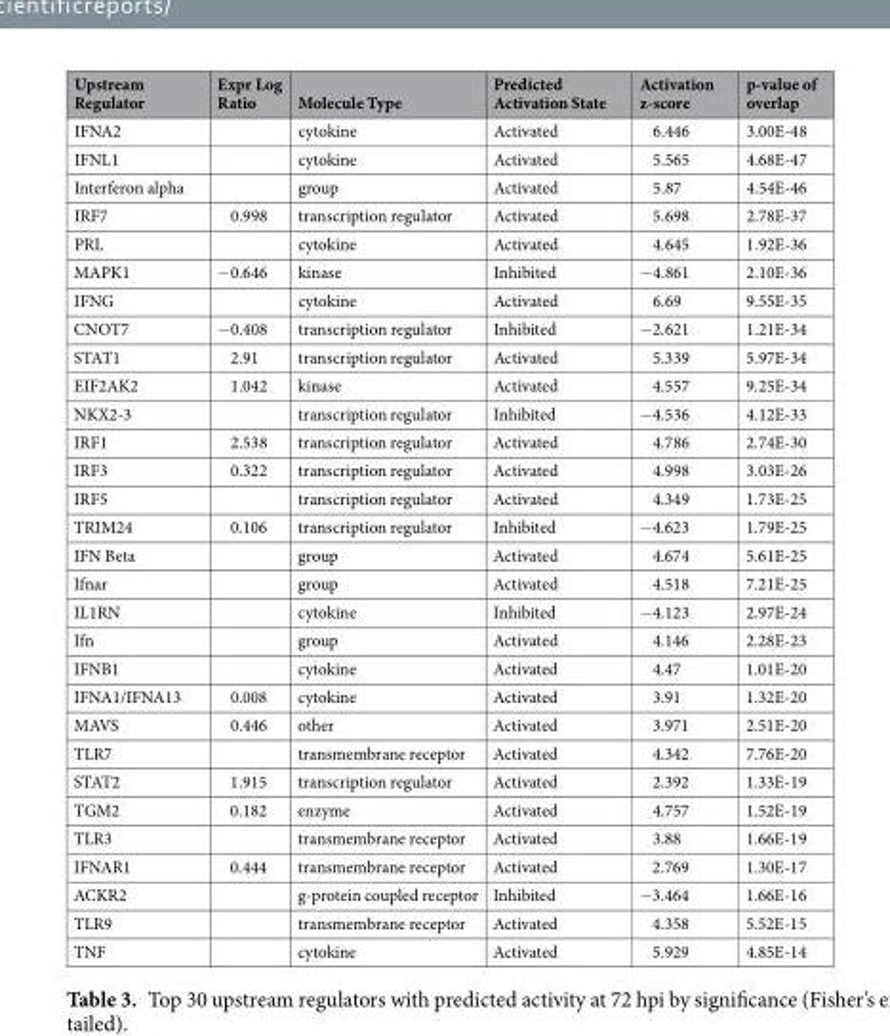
<table><thead><tr><td>Upstream Regulator</td><td>Expr Log Ratio</td><td>Molecule Type</td><td>Predicted Activation State</td><td>Activation z-score</td><td>p-value of overlap</td></tr></thead><tbody><tr><td>IFNA2</td><td></td><td>cytokine</td><td>Activated</td><td>6.446</td><td>3.00E-48</td></tr><tr><td>IFNL1</td><td></td><td>cytokine</td><td>Activated</td><td>5.565</td><td>4.68E-47</td></tr><tr><td>Interferon alpha</td><td></td><td>group</td><td>Activated</td><td>5.87</td><td>4.54E-46</td></tr><tr><td>IRF7</td><td>0.998</td><td>transcription regulator</td><td>Activated</td><td>5.698</td><td>2.78E-37</td></tr><tr><td>PRL</td><td></td><td>cytokine</td><td>Activated</td><td>4.645</td><td>1.92E-36</td></tr><tr><td>MAPK1</td><td>−0.646</td><td>kinase</td><td>Inhibited</td><td>−4.861</td><td>2.10E-36</td></tr><tr><td>IFNG</td><td></td><td>cytokine</td><td>Activated</td><td>6.69</td><td>9.55E-35</td></tr><tr><td>CNOT7</td><td>−0.408</td><td>transcription regulator</td><td>Inhibited</td><td>−2.621</td><td>1.21E-34</td></tr><tr><td>STAT1</td><td>2.91</td><td>transcription regulator</td><td>Activated</td><td>5.339</td><td>5.97E-34</td></tr><tr><td>EIF2AK2</td><td>1.042</td><td>kinase</td><td>Activated</td><td>4.557</td><td>9.25E-34</td></tr><tr><td>NKX2-3</td><td></td><td>transcription regulator</td><td>Inhibited</td><td>−4.536</td><td>4.12E-33</td></tr><tr><td>IRF1</td><td>2.538</td><td>transcription regulator</td><td>Activated</td><td>4.786</td><td>2.74E-30</td></tr><tr><td>IRF3</td><td>0.322</td><td>transcription regulator</td><td>Activated</td><td>4.998</td><td>3.03E-26</td></tr><tr><td>IRF5</td><td></td><td>transcription regulator</td><td>Activated</td><td>4.349</td><td>1.73E-25</td></tr><tr><td>TRIM24</td><td>0.106</td><td>transcription regulator</td><td>Inhibited</td><td>−4.623</td><td>1.79E-25</td></tr><tr><td>IFN Beta</td><td></td><td>group</td><td>Activated</td><td>4.674</td><td>5.61E-25</td></tr><tr><td>Ifnar</td><td></td><td>group</td><td>Activated</td><td>4.518</td><td>7.21E-25</td></tr><tr><td>IL1RN</td><td></td><td>cytokine</td><td>Inhibited</td><td>−4.123</td><td>2.97E-24</td></tr><tr><td>Ifn</td><td></td><td>group</td><td>Activated</td><td>4.146</td><td>2.28E-23</td></tr><tr><td>IFNB1</td><td></td><td>cytokine</td><td>Activated</td><td>4.47</td><td>1.01E-20</td></tr><tr><td>IFNA1/IFNA13</td><td>0.008</td><td>cytokine</td><td>Activated</td><td>3.91</td><td>1.32E-20</td></tr><tr><td>MAVS</td><td>0.446</td><td>other</td><td>Activated</td><td>3.971</td><td>2.51E-20</td></tr><tr><td>TLR7</td><td></td><td>transmembrane receptor</td><td>Activated</td><td>4.342</td><td>7.76E-20</td></tr><tr><td>STAT2</td><td>1.915</td><td>transcription regulator</td><td>Activated</td><td>2.392</td><td>1.33E-19</td></tr><tr><td>TGM2</td><td>0.182</td><td>enzyme</td><td>Activated</td><td>4.757</td><td>1.52E-19</td></tr><tr><td>TLR3</td><td></td><td>transmembrane receptor</td><td>Activated</td><td>3.88</td><td>1.66E-19</td></tr><tr><td>IFNAR1</td><td>0.444</td><td>transmembrane receptor</td><td>Activated</td><td>2.769</td><td>1.30E-17</td></tr><tr><td>ACKR2</td><td></td><td>g-protein coupled receptor</td><td>Inhibited</td><td>−3.464</td><td>1.66E-16</td></tr><tr><td>TLR9</td><td></td><td>transmembrane receptor</td><td>Activated</td><td>4.358</td><td>5.52E-15</td></tr><tr><td>TNF</td><td></td><td>cytokine</td><td>Activated</td><td>5.929</td><td>4.85E-14</td></tr></tbody></table>